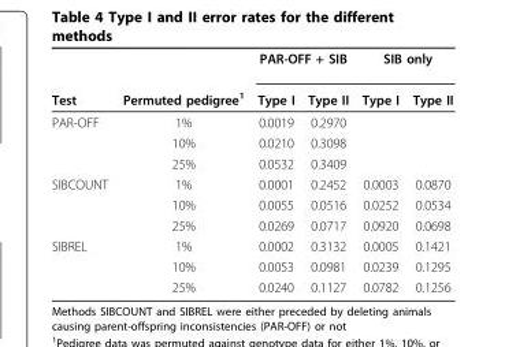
<table><thead><tr><td rowspan="2">Test</td><td rowspan="2">Permuted pedigree<sup>1</sup></td><td colspan="2">PAR-OFF + SIB</td><td colspan="2">SIB only</td></tr><tr><td>Type I</td><td>Type II</td><td>Type I</td><td>Type II</td></tr></thead><tbody><tr><td rowspan="3">PAR-OFF</td><td>1%</td><td>0.0019</td><td>0.2970</td><td></td><td></td></tr><tr><td>10%</td><td>0.0210</td><td>0.3098</td><td></td><td></td></tr><tr><td>25%</td><td>0.0532</td><td>0.3409</td><td></td><td></td></tr><tr><td rowspan="3">SIBCOUNT</td><td>1%</td><td>0.0001</td><td>0.2452</td><td>0.0003</td><td>0.0870</td></tr><tr><td>10%</td><td>0.0055</td><td>0.0516</td><td>0.0252</td><td>0.0534</td></tr><tr><td>25%</td><td>0.0269</td><td>0.0717</td><td>0.0920</td><td>0.0698</td></tr><tr><td rowspan="3">SIBREL</td><td>1%</td><td>0.0002</td><td>0.3132</td><td>0.0005</td><td>0.1421</td></tr><tr><td>10%</td><td>0.0053</td><td>0.0981</td><td>0.0239</td><td>0.1295</td></tr><tr><td>25%</td><td>0.0240</td><td>0.1127</td><td>0.0782</td><td>0.1256</td></tr></tbody></table>